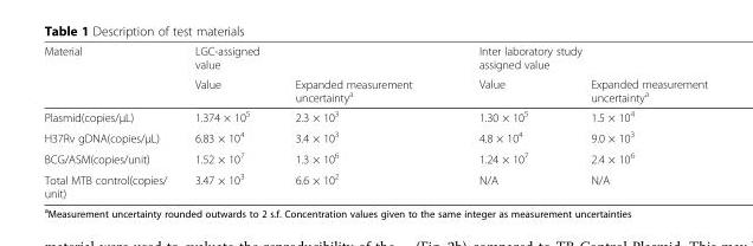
<table><thead><tr><td rowspan="2">Material</td><td rowspan="2">LGC-assigned value Value</td><td rowspan="2">Expanded measurement uncertainty<sup>a</sup></td><td rowspan="2">Inter laboratory study assigned value Value</td><td rowspan="2">Expanded measurement uncertainty<sup>a</sup></td></tr><tr></tr></thead><tbody><tr><td>Plasmid(copies/μL)</td><td>1.374 × 10<sup>5</sup></td><td>2.3 × 10<sup>3</sup></td><td>1.30 × 10<sup>5</sup></td><td>1.5 × 10<sup>4</sup></td></tr><tr><td>H37Rv gDNA(copies/µL)</td><td>6.83 × 10<sup>4</sup></td><td>3.4 × 10<sup>3</sup></td><td>4.8 × 10<sup>4</sup></td><td>9.0 × 10<sup>3</sup></td></tr><tr><td>BCG/ASM(copies/unit)</td><td>1.52 × 10<sup>7</sup></td><td>1.3 × 10<sup>6</sup></td><td>1.24 × 10<sup>7</sup></td><td>2.4 × 10<sup>6</sup></td></tr><tr><td>Total MTB control(copies/ unit)</td><td>3.47 × 10<sup>3</sup></td><td>6.6 × 10<sup>2</sup></td><td>N/A</td><td>N/A</td></tr></tbody></table>